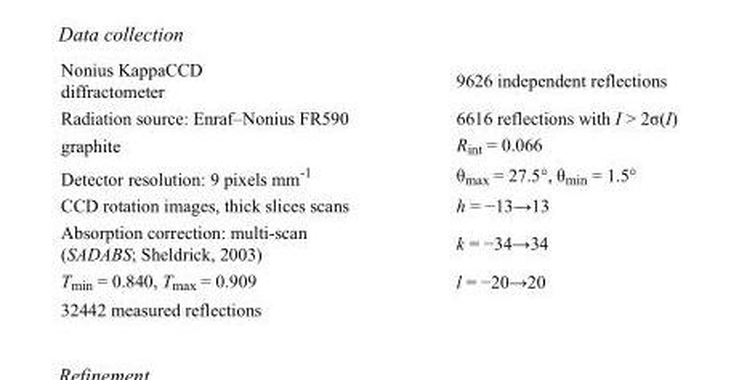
<table><tbody><tr><td>Nonius KappaCCD diffractometer</td><td>9626 independent reflections</td></tr><tr><td>Radiation source: Enraf–Nonius FR590</td><td>6616 reflections with I &gt; 2σ(I)</td></tr><tr><td>graphite</td><td>R<sub>int</sub> = 0.066</td></tr><tr><td>Detector resolution: 9 pixels mm<sup>-1</sup></td><td>θ<sub>max</sub> = 27.5°, θ<sub>min</sub> = 1.5°</td></tr><tr><td>CCD rotation images, thick slices scans</td><td>h = −13→13</td></tr><tr><td>Absorption correction: multi-scan (SADABS; Sheldrick, 2003)</td><td>k = −34→34</td></tr><tr><td>T<sub>min</sub> = 0.840, T<sub>max</sub> = 0.909</td><td>l = −20→20</td></tr><tr><td>32442 measured reflections</td><td></td></tr></tbody></table>